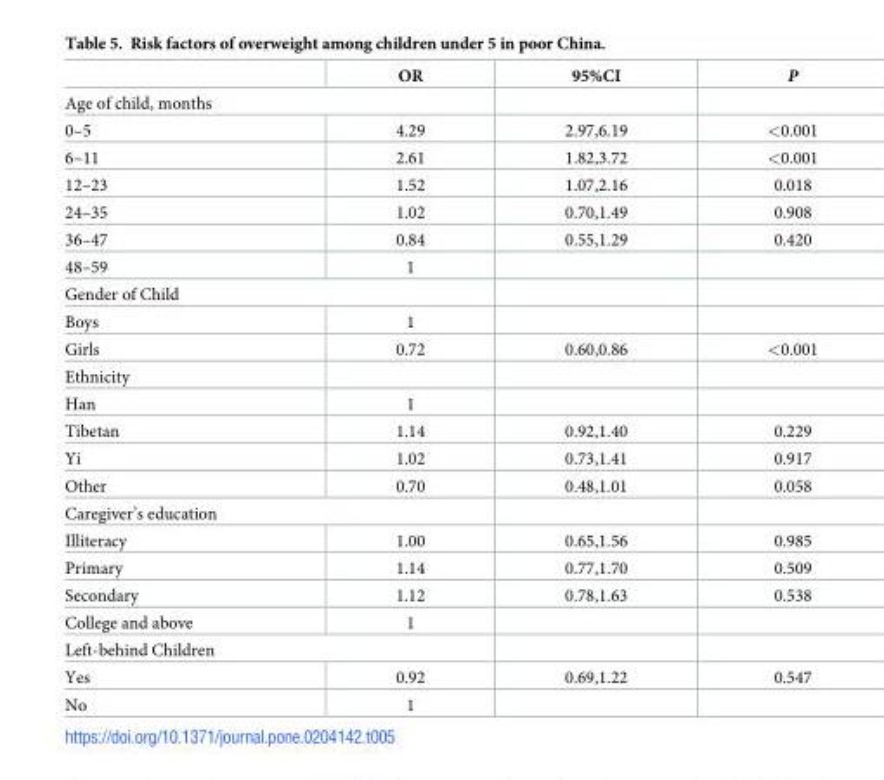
<table><thead><tr><td></td><td>OR</td><td>95%CI</td><td>P</td></tr></thead><tbody><tr><td colspan="4">Age of child, months</td></tr><tr><td>0–5</td><td>4.29</td><td>2.97,6.19</td><td>&lt;0.001</td></tr><tr><td>6–11</td><td>2.61</td><td>1.82,3.72</td><td>&lt;0.001</td></tr><tr><td>12–23</td><td>1.52</td><td>1.07,2.16</td><td>0.018</td></tr><tr><td>24–35</td><td>1.02</td><td>0.70,1.49</td><td>0.908</td></tr><tr><td>36–47</td><td>0.84</td><td>0.55,1.29</td><td>0.420</td></tr><tr><td>48–59</td><td>1</td><td></td><td></td></tr><tr><td colspan="4">Gender of Child</td></tr><tr><td>Boys</td><td>1</td><td></td><td></td></tr><tr><td>Girls</td><td>0.72</td><td>0.60,0.86</td><td>&lt;0.001</td></tr><tr><td colspan="4">Ethnicity</td></tr><tr><td>Han</td><td>1</td><td></td><td></td></tr><tr><td>Tibetan</td><td>1.14</td><td>0.92,1.40</td><td>0.229</td></tr><tr><td>Yi</td><td>1.02</td><td>0.73,1.41</td><td>0.917</td></tr><tr><td>Other</td><td>0.70</td><td>0.48,1.01</td><td>0.058</td></tr><tr><td colspan="4">Caregiver’s education</td></tr><tr><td>Illiteracy</td><td>1.00</td><td>0.65,1.56</td><td>0.985</td></tr><tr><td>Primary</td><td>1.14</td><td>0.77,1.70</td><td>0.509</td></tr><tr><td>Secondary</td><td>1.12</td><td>0.78,1.63</td><td>0.538</td></tr><tr><td>College and above</td><td>1</td><td></td><td></td></tr><tr><td colspan="4">Left-behind Children</td></tr><tr><td>Yes</td><td>0.92</td><td>0.69,1.22</td><td>0.547</td></tr><tr><td>No</td><td>1</td><td></td><td></td></tr></tbody></table>